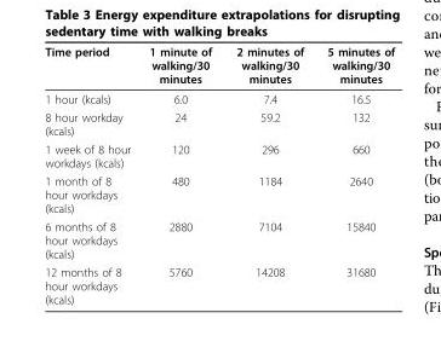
<table><thead><tr><td>Time period</td><td>1 minute of walking/30 minutes</td><td>2 minutes of walking/30 minutes</td><td>5 minutes of walking/30 minutes</td></tr></thead><tbody><tr><td>1 hour (kcals)</td><td>6.0</td><td>7.4</td><td>16.5</td></tr><tr><td>8 hour workday (kcals)</td><td>24</td><td>59.2</td><td>132</td></tr><tr><td>1 week of 8 hour workdays (kcals)</td><td>120</td><td>296</td><td>660</td></tr><tr><td>1 month of 8 hour workdays (kcals)</td><td>480</td><td>1184</td><td>2640</td></tr><tr><td>6 months of 8 hour workdays (kcals)</td><td>2880</td><td>7104</td><td>15840</td></tr><tr><td>12 months of 8 hour workdays (kcals)</td><td>5760</td><td>14208</td><td>31680</td></tr></tbody></table>